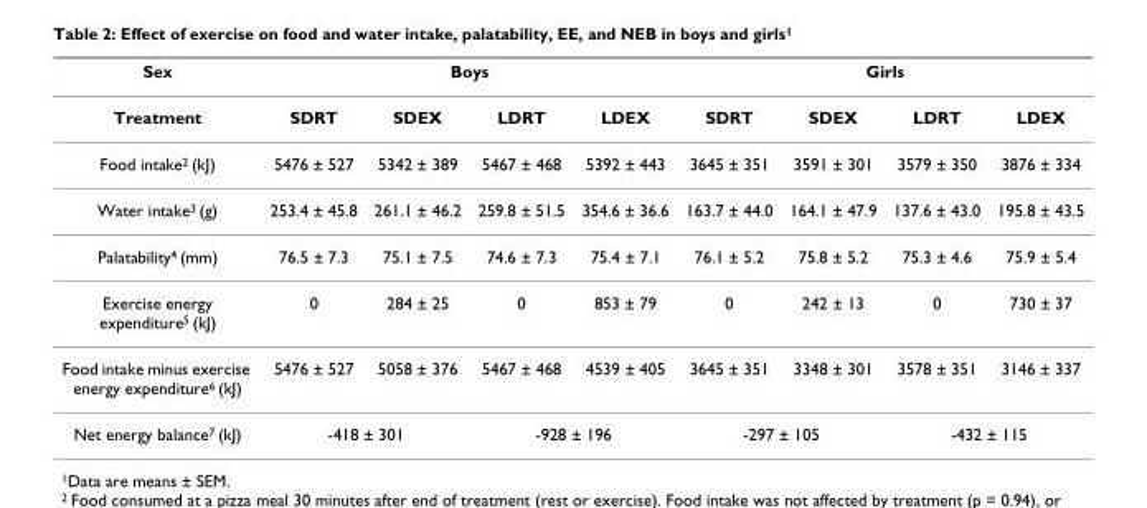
<table><thead><tr><td rowspan="2">Sex Treatment</td><td colspan="4">Boys</td><td colspan="4">Girls</td></tr><tr><td>SDRT</td><td>SDEX</td><td>LDRT</td><td>LDEX</td><td>SDRT</td><td>SDEX</td><td>LDRT</td><td>LDEX</td></tr></thead><tbody><tr><td>Food intake<sup>2</sup> (kJ)</td><td>5476 ± 527</td><td>5342 ± 389</td><td>5467 ± 468</td><td>5392 ± 443</td><td>3645 ± 351</td><td>3591 ± 301</td><td>3579 ± 350</td><td>3876 ± 334</td></tr><tr><td>Water intake<sup>3</sup> (g)</td><td>253.4 ± 45.8</td><td>261.1 ± 46.2</td><td>259.8 ± 51.5</td><td>354.6 ± 36.6</td><td>163.7 ± 44.0</td><td>164.1 ± 47.9</td><td>137.6 ± 43.0</td><td>195.8 ± 43.5</td></tr><tr><td>Palatability<sup>4</sup> (mm)</td><td>76.5 ± 7.3</td><td>75.1 ± 7.5</td><td>74.6 ± 7.3</td><td>75.4 ± 7.1</td><td>76.1 ± 5.2</td><td>75.8 ± 5.2</td><td>75.3 ± 4.6</td><td>75.9 ± 5.4</td></tr><tr><td>Exercise energy expenditure<sup>5</sup> (kJ)</td><td>0</td><td>284 ± 25</td><td>0</td><td>853 ± 79</td><td>0</td><td>242 ± 13</td><td>0</td><td>730 ± 37</td></tr><tr><td>Food intake minus exercise energy expenditure<sup>6</sup> (kJ)</td><td>5476 ± 527</td><td>5058 ± 376</td><td>5467 ± 468</td><td>4539 ± 405</td><td>3645 ± 351</td><td>3348 ± 301</td><td>3578 ± 351</td><td>3146 ± 337</td></tr><tr><td>Net energy balance<sup>7</sup> (kJ)</td><td colspan="2">-418 ± 301</td><td colspan="2">-928 ± 196</td><td colspan="2">-297 ± 105</td><td colspan="2">-432 ± 115</td></tr></tbody></table>